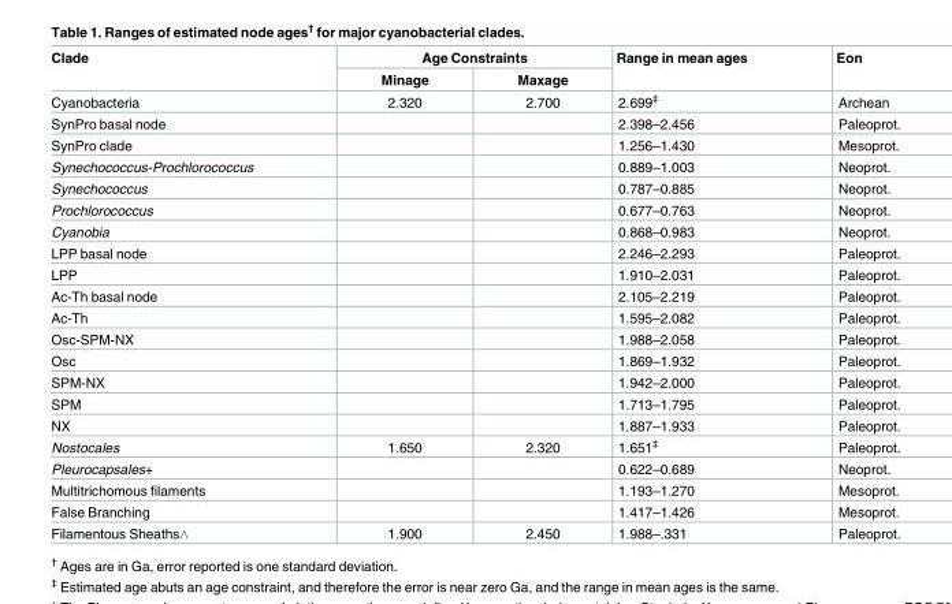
<table><thead><tr><td rowspan="2">Clade</td><td colspan="2">Age Constraints</td><td rowspan="2">Range in mean ages</td><td rowspan="2">Eon</td></tr><tr><td>Minage</td><td>Maxage</td></tr></thead><tbody><tr><td>Cyanobacteria</td><td>2.320</td><td>2.700</td><td>2.699<sup>‡</sup></td><td>Archean</td></tr><tr><td>SynPro basal node</td><td></td><td></td><td>2.398–2.456</td><td>Paleoprot.</td></tr><tr><td>SynPro clade</td><td></td><td></td><td>1.256–1.430</td><td>Mesoprot.</td></tr><tr><td>Synechococcus-Prochlorococcus</td><td></td><td></td><td>0.889–1.003</td><td>Neoprot.</td></tr><tr><td>Synechococcus</td><td></td><td></td><td>0.787–0.885</td><td>Neoprot.</td></tr><tr><td>Prochlorococcus</td><td></td><td></td><td>0.677–0.763</td><td>Neoprot.</td></tr><tr><td>Cyanobia</td><td></td><td></td><td>0.868–0.983</td><td>Neoprot.</td></tr><tr><td>LPP basal node</td><td></td><td></td><td>2.246–2.293</td><td>Paleoprot.</td></tr><tr><td>LPP</td><td></td><td></td><td>1.910–2.031</td><td>Paleoprot.</td></tr><tr><td>Ac-Th basal node</td><td></td><td></td><td>2.105–2.219</td><td>Paleoprot.</td></tr><tr><td>Ac-Th</td><td></td><td></td><td>1.595–2.082</td><td>Paleoprot.</td></tr><tr><td>Osc-SPM-NX</td><td></td><td></td><td>1.988–2.058</td><td>Paleoprot.</td></tr><tr><td>Osc</td><td></td><td></td><td>1.869–1.932</td><td>Paleoprot.</td></tr><tr><td>SPM-NX</td><td></td><td></td><td>1.942–2.000</td><td>Paleoprot.</td></tr><tr><td>SPM</td><td></td><td></td><td>1.713–1.795</td><td>Paleoprot.</td></tr><tr><td>NX</td><td></td><td></td><td>1.887–1.933</td><td>Paleoprot.</td></tr><tr><td>Nostocales</td><td>1.650</td><td>2.320</td><td>1.651<sup>‡</sup></td><td>Paleoprot.</td></tr><tr><td>Pleurocapsales+</td><td></td><td></td><td>0.622–0.689</td><td>Neoprot.</td></tr><tr><td>Multitrichomous filaments</td><td></td><td></td><td>1.193–1.270</td><td>Mesoprot.</td></tr><tr><td>False Branching</td><td></td><td></td><td>1.417–1.426</td><td>Mesoprot.</td></tr><tr><td>Filamentous Sheaths∧</td><td>1.900</td><td>2.450</td><td>1.988–.331</td><td>Paleoprot.</td></tr></tbody></table>